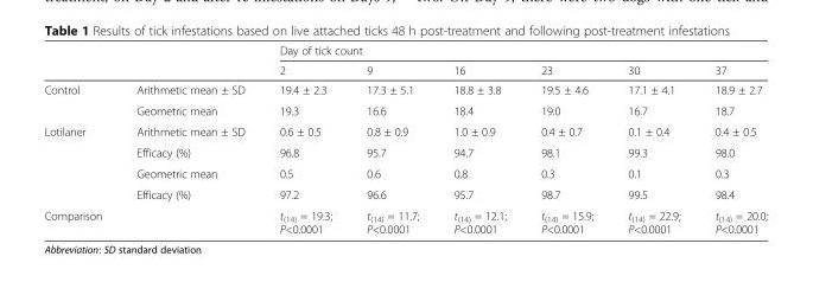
<table><thead><tr><td rowspan="2"></td><td rowspan="2"></td><td colspan="6">Day of tick count</td></tr><tr><td>2</td><td>9</td><td>16</td><td>23</td><td>30</td><td>37</td></tr></thead><tbody><tr><td rowspan="2">Control</td><td>Arithmetic mean ± SD</td><td>19.4 ± 2.3</td><td>17.3 ± 5.1</td><td>18.8 ± 3.8</td><td>19.5 ± 4.6</td><td>17.1 ± 4.1</td><td>18.9 ± 2.7</td></tr><tr><td>Geometric mean</td><td>19.3</td><td>16.6</td><td>18.4</td><td>19.0</td><td>16.7</td><td>18.7</td></tr><tr><td rowspan="4">Lotilaner</td><td>Arithmetic mean ± SD</td><td>0.6 ± 0.5</td><td>0.8 ± 0.9</td><td>1.0 ± 0.9</td><td>0.4 ± 0.7</td><td>0.1 ± 0.4</td><td>0.4 ± 0.5</td></tr><tr><td>Efficacy (%)</td><td>96.8</td><td>95.7</td><td>94.7</td><td>98.1</td><td>99.3</td><td>98.0</td></tr><tr><td>Geometric mean</td><td>0.5</td><td>0.6</td><td>0.8</td><td>0.3</td><td>0.1</td><td>0.3</td></tr><tr><td>Efficacy (%)</td><td>97.2</td><td>96.6</td><td>95.7</td><td>98.7</td><td>99.5</td><td>98.4</td></tr><tr><td>Comparison</td><td></td><td>t<sub>(14)</sub> = 19.3; P&lt;0.0001</td><td>t<sub>(14)</sub> = 11.7; P&lt;0.0001</td><td>t<sub>(14)</sub> = 12.1; P&lt;0.0001</td><td>t<sub>(14)</sub> = 15.9; P&lt;0.0001</td><td>t<sub>(14)</sub> = 22.9; P&lt;0.0001</td><td>t<sub>(14)</sub> = 20.0; P&lt;0.0001</td></tr></tbody></table>